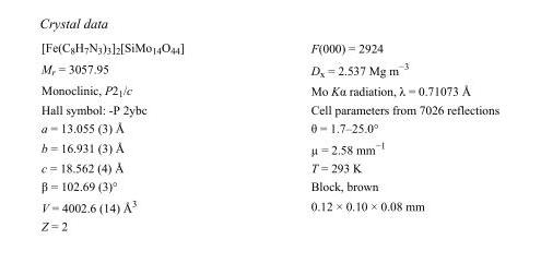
<table><tbody><tr><td>[Fe(C<sub>8</sub>H<sub>7</sub>N<sub>3</sub>)<sub>3</sub>]<sub>2</sub>[SiMo<sub>14</sub>O<sub>44</sub>]</td><td>F(000) = 2924</td></tr><tr><td>M<sub>r</sub> = 3057.95</td><td>D<sub>x</sub> = 2.537 Mg m<sup>−3</sup></td></tr><tr><td>Monoclinic, P2<sub>1</sub>/c</td><td>Mo Kα radiation, λ = 0.71073 Å</td></tr><tr><td>Hall symbol: -P 2ybc</td><td>Cell parameters from 7026 reflections</td></tr><tr><td>a = 13.055 (3) Å</td><td>θ = 1.7–25.0°</td></tr><tr><td>b = 16.931 (3) Å</td><td>µ = 2.58 mm<sup>−1</sup></td></tr><tr><td>c = 18.562 (4) Å</td><td>T = 293 K</td></tr><tr><td>β = 102.69 (3)°</td><td>Block, brown</td></tr><tr><td>V = 4002.6 (14) Å<sup>3</sup></td><td>0.12 × 0.10 × 0.08 mm</td></tr><tr><td>Z = 2</td><td></td></tr></tbody></table>